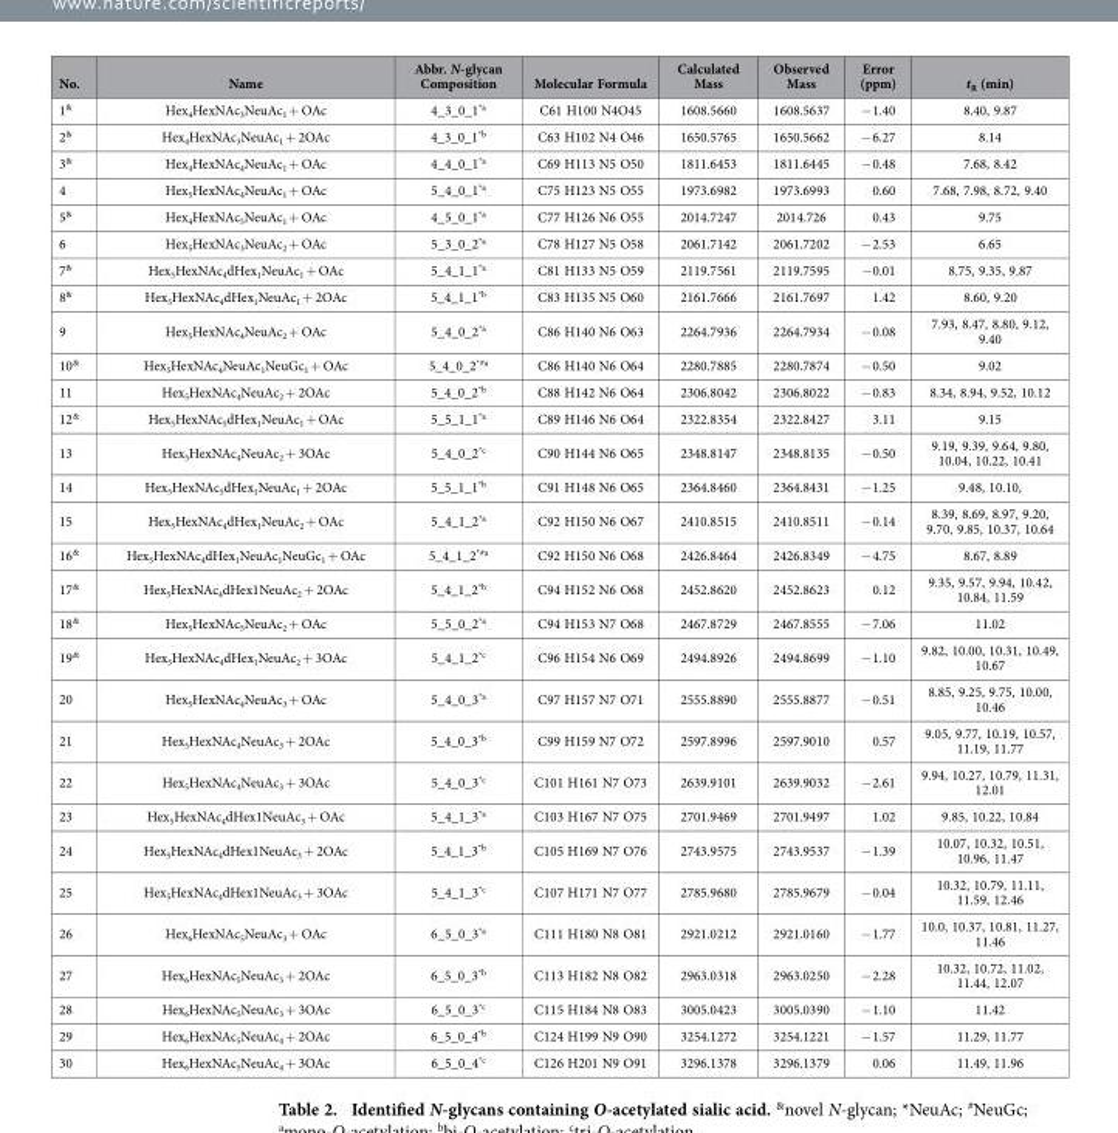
<table><thead><tr><td>No.</td><td>Name</td><td>Abbr. N-glycan Composition</td><td>Molecular Formula</td><td>Calculated Mass</td><td>Observed Mass</td><td>Error (ppm)</td><td>t<sub>R</sub> (min)</td></tr></thead><tbody><tr><td>1<sup>&amp;</sup></td><td>Hex<sub>4</sub>HexNAc<sub>3</sub>NeuAc<sub>1</sub> + OAc</td><td>4_3_0_1<sup>*a</sup></td><td>C61 H100 N4O45</td><td>1608.5660</td><td>1608.5637</td><td>− 1.40</td><td>8.40, 9.87</td></tr><tr><td>2<sup>&amp;</sup></td><td>Hex<sub>4</sub>HexNAc<sub>3</sub>NeuAc<sub>1</sub> + 2OAc</td><td>4_3_0_1<sup>*b</sup></td><td>C63 H102 N4 O46</td><td>1650.5765</td><td>1650.5662</td><td>− 6.27</td><td>8.14</td></tr><tr><td>3<sup>&amp;</sup></td><td>Hex<sub>4</sub>HexNAc<sub>4</sub>NeuAc<sub>1</sub> + OAc</td><td>4_4_0_1<sup>*a</sup></td><td>C69 H113 N5 O50</td><td>1811.6453</td><td>1811.6445</td><td>− 0.48</td><td>7.68, 8.42</td></tr><tr><td>4</td><td>Hex<sub>5</sub>HexNAc<sub>4</sub>NeuAc<sub>1</sub> + OAc</td><td>5_4_0_1<sup>*a</sup></td><td>C75 H123 N5 O55</td><td>1973.6982</td><td>1973.6993</td><td>0.60</td><td>7.68, 7.98, 8.72, 9.40</td></tr><tr><td>5<sup>&amp;</sup></td><td>Hex<sub>4</sub>HexNAc<sub>5</sub>NeuAc<sub>1</sub> + OAc</td><td>4_5_0_1<sup>*a</sup></td><td>C77 H126 N6 O55</td><td>2014.7247</td><td>2014.726</td><td>0.43</td><td>9.75</td></tr><tr><td>6</td><td>Hex<sub>5</sub>HexNAc<sub>3</sub>NeuAc<sub>2</sub> + OAc</td><td>5_3_0_2<sup>*a</sup></td><td>C78 H127 N5 O58</td><td>2061.7142</td><td>2061.7202</td><td>− 2.53</td><td>6.65</td></tr><tr><td>7<sup>&amp;</sup></td><td>Hex<sub>5</sub>HexNAc<sub>4</sub>dHex<sub>1</sub>NeuAc<sub>1</sub> + OAc</td><td>5_4_1_1<sup>*a</sup></td><td>C81 H133 N5 O59</td><td>2119.7561</td><td>2119.7595</td><td>−0.01</td><td>8.75, 9.35, 9.87</td></tr><tr><td>8<sup>&amp;</sup></td><td>Hex<sub>5</sub>HexNAc<sub>4</sub>dHex<sub>1</sub>NeuAc<sub>1</sub> + 2OAc</td><td>5_4_1_1<sup>*b</sup></td><td>C83 H135 N5 O60</td><td>2161.7666</td><td>2161.7697</td><td>1.42</td><td>8.60, 9.20</td></tr><tr><td>9</td><td>Hex<sub>5</sub>HexNAc<sub>4</sub>NeuAc<sub>2</sub> + OAc</td><td>5_4_0_2<sup>*a</sup></td><td>C86 H140 N6 O63</td><td>2264.7936</td><td>2264.7934</td><td>− 0.08</td><td>7.93, 8.47, 8.80, 9.12, 9.40</td></tr><tr><td>10<sup>&amp;</sup></td><td>Hex<sub>5</sub>HexNAc<sub>4</sub>NeuAc<sub>1</sub>NeuGc<sub>1</sub> + OAc</td><td>5_4_0_2<sup>*#a</sup></td><td>C86 H140 N6 O64</td><td>2280.7885</td><td>2280.7874</td><td>− 0.50</td><td>9.02</td></tr><tr><td>11</td><td>Hex<sub>5</sub>HexNAc<sub>4</sub>NeuAc<sub>2</sub> + 2OAc</td><td>5_4_0_2<sup>*b</sup></td><td>C88 H142 N6 O64</td><td>2306.8042</td><td>2306.8022</td><td>− 0.83</td><td>8.34, 8.94, 9.52, 10.12</td></tr><tr><td>12<sup>&amp;</sup></td><td>Hex<sub>5</sub>HexNAc<sub>5</sub>dHex<sub>1</sub>NeuAc<sub>1</sub> + OAc</td><td>5_5_1_1<sup>*a</sup></td><td>C89 H146 N6 O64</td><td>2322.8354</td><td>2322.8427</td><td>3.11</td><td>9.15</td></tr><tr><td>13</td><td>Hex<sub>5</sub>HexNAc<sub>4</sub>NeuAc<sub>2</sub> + 3OAc</td><td>5_4_0_2<sup>*c</sup></td><td>C90 H144 N6 O65</td><td>2348.8147</td><td>2348.8135</td><td>− 0.50</td><td>9.19, 9.39, 9.64, 9.80, 10.04, 10.22, 10.41</td></tr><tr><td>14</td><td>Hex<sub>5</sub>HexNAc<sub>5</sub>dHex<sub>1</sub>NeuAc<sub>1</sub> + 2OAc</td><td>5_5_1_1<sup>*b</sup></td><td>C91 H148 N6 O65</td><td>2364.8460</td><td>2364.8431</td><td>− 1.25</td><td>9.48, 10.10,</td></tr><tr><td>15</td><td>Hex<sub>5</sub>HexNAc<sub>4</sub>dHex<sub>1</sub>NeuAc<sub>2</sub> + OAc</td><td>5_4_1_2<sup>*a</sup></td><td>C92 H150 N6 O67</td><td>2410.8515</td><td>2410.8511</td><td>− 0.14</td><td>8.39, 8.69, 8.97, 9.20, 9.70, 9.85, 10.37, 10.64</td></tr><tr><td>16<sup>&amp;</sup></td><td>Hex<sub>5</sub>HexNAc<sub>4</sub>dHex<sub>1</sub>NeuAc<sub>1</sub>NeuGc<sub>1</sub> + OAc</td><td>5_4_1_2<sup>*#a</sup></td><td>C92 H150 N6 O68</td><td>2426.8464</td><td>2426.8349</td><td>− 4.75</td><td>8.67, 8.89</td></tr><tr><td>17<sup>&amp;</sup></td><td>Hex<sub>5</sub>HexNAc<sub>4</sub>dHex1NeuAc<sub>2</sub> + 2OAc</td><td>5_4_1_2<sup>*b</sup></td><td>C94 H152 N6 O68</td><td>2452.8620</td><td>2452.8623</td><td>0.12</td><td>9.35, 9.57, 9.94, 10.42, 10.84, 11.59</td></tr><tr><td>18<sup>&amp;</sup></td><td>Hex<sub>5</sub>HexNAc<sub>5</sub>NeuAc<sub>2</sub> + OAc</td><td>5_5_0_2<sup>*a</sup></td><td>C94 H153 N7 O68</td><td>2467.8729</td><td>2467.8555</td><td>− 7.06</td><td>11.02</td></tr><tr><td>19<sup>&amp;</sup></td><td>Hex<sub>5</sub>HexNAc<sub>4</sub>dHex<sub>1</sub>NeuAc<sub>2</sub> + 3OAc</td><td>5_4_1_2<sup>*c</sup></td><td>C96 H154 N6 O69</td><td>2494.8926</td><td>2494.8699</td><td>− 1.10</td><td>9.82, 10.00, 10.31, 10.49, 10.67</td></tr><tr><td>20</td><td>Hex<sub>5</sub>HexNAc<sub>4</sub>NeuAc<sub>3</sub> + OAc</td><td>5_4_0_3<sup>*a</sup></td><td>C97 H157 N7 O71</td><td>2555.8890</td><td>2555.8877</td><td>− 0.51</td><td>8.85, 9.25, 9.75, 10.00, 10.46</td></tr><tr><td>21</td><td>Hex<sub>5</sub>HexNAc<sub>4</sub>NeuAc<sub>3</sub> + 2OAc</td><td>5_4_0_3<sup>*b</sup></td><td>C99 H159 N7 O72</td><td>2597.8996</td><td>2597.9010</td><td>0.57</td><td>9.05, 9.77, 10.19, 10.57, 11.19, 11.77</td></tr><tr><td>22</td><td>Hex<sub>5</sub>HexNAc<sub>4</sub>NeuAc<sub>3</sub> + 3OAc</td><td>5_4_0_3<sup>*c</sup></td><td>C101 H161 N7 O73</td><td>2639.9101</td><td>2639.9032</td><td>− 2.61</td><td>9.94, 10.27, 10.79, 11.31, 12.01</td></tr><tr><td>23</td><td>Hex<sub>5</sub>HexNAc<sub>4</sub>dHex1NeuAc<sub>3</sub> + OAc</td><td>5_4_1_3<sup>*a</sup></td><td>C103 H167 N7 O75</td><td>2701.9469</td><td>2701.9497</td><td>1.02</td><td>9.85, 10.22, 10.84</td></tr><tr><td>24</td><td>Hex<sub>5</sub>HexNAc<sub>4</sub>dHex1NeuAc<sub>3</sub> + 2OAc</td><td>5_4_1_3<sup>*b</sup></td><td>C105 H169 N7 O76</td><td>2743.9575</td><td>2743.9537</td><td>− 1.39</td><td>10.07, 10.32, 10.51, 10.96, 11.47</td></tr><tr><td>25</td><td>Hex<sub>5</sub>HexNAc<sub>4</sub>dHex1NeuAc<sub>3</sub> + 3OAc</td><td>5_4_1_3<sup>*c</sup></td><td>C107 H171 N7 O77</td><td>2785.9680</td><td>2785.9679</td><td>− 0.04</td><td>10.32, 10.79, 11.11, 11.59, 12.46</td></tr><tr><td>26</td><td>Hex<sub>6</sub>HexNAc<sub>5</sub>NeuAc<sub>3</sub> + OAc</td><td>6_5_0_3<sup>*a</sup></td><td>C111 H180 N8 O81</td><td>2921.0212</td><td>2921.0160</td><td>− 1.77</td><td>10.0, 10.37, 10.81, 11.27, 11.46</td></tr><tr><td>27</td><td>Hex<sub>6</sub>HexNAc<sub>5</sub>NeuAc<sub>3</sub> + 2OAc</td><td>6_5_0_3<sup>*b</sup></td><td>C113 H182 N8 O82</td><td>2963.0318</td><td>2963.0250</td><td>− 2.28</td><td>10.32, 10.72, 11.02, 11.44, 12.07</td></tr><tr><td>28</td><td>Hex<sub>6</sub>HexNAc<sub>5</sub>NeuAc<sub>3</sub> + 3OAc</td><td>6_5_0_3<sup>*c</sup></td><td>C115 H184 N8 O83</td><td>3005.0423</td><td>3005.0390</td><td>− 1.10</td><td>11.42</td></tr><tr><td>29</td><td>Hex<sub>6</sub>HexNAc<sub>5</sub>NeuAc<sub>4</sub> + 2OAc</td><td>6_5_0_4<sup>*b</sup></td><td>C124 H199 N9 O90</td><td>3254.1272</td><td>3254.1221</td><td>− 1.57</td><td>11.29, 11.77</td></tr><tr><td>30</td><td>Hex<sub>6</sub>HexNAc<sub>5</sub>NeuAc<sub>4</sub> + 3OAc</td><td>6_5_0_4<sup>*c</sup></td><td>C126 H201 N9 O91</td><td>3296.1378</td><td>3296.1379</td><td>0.06</td><td>11.49, 11.96</td></tr></tbody></table>